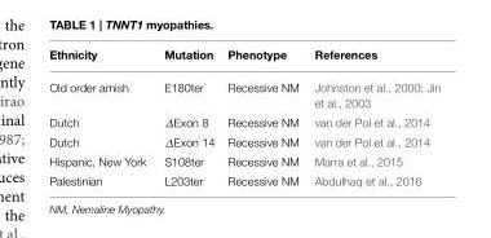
<table><thead><tr><td>Ethnicity</td><td>Mutation</td><td>Phenotype</td><td>References</td></tr></thead><tbody><tr><td>Old order amish</td><td>E180ter</td><td>Recessive NM</td><td>Johnston et al., 2000; Jin et al., 2003</td></tr><tr><td>Dutch</td><td>∆Exon 8</td><td>Recessive NM</td><td>van der Pol et al., 2014</td></tr><tr><td>Dutch</td><td>∆Exon 14</td><td>Recessive NM</td><td>van der Pol et al., 2014</td></tr><tr><td>Hispanic, New York</td><td>S108ter</td><td>Recessive NM</td><td>Marra et al., 2015</td></tr><tr><td>Palestinian</td><td>L203ter</td><td>Recessive NM</td><td>Abdulhaq et al., 2016</td></tr></tbody></table>